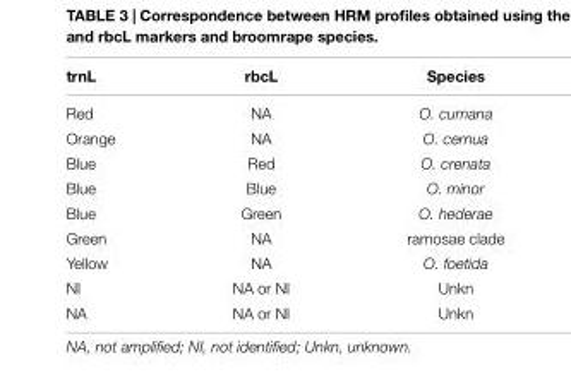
<table><thead><tr><td>trnL</td><td>rbcL</td><td>Species</td></tr></thead><tbody><tr><td>Red</td><td>NA</td><td>O. cumana</td></tr><tr><td>Orange</td><td>NA</td><td>O. cernua</td></tr><tr><td>Blue</td><td>Red</td><td>O. crenata</td></tr><tr><td>Blue</td><td>Blue</td><td>O. minor</td></tr><tr><td>Blue</td><td>Green</td><td>O. hederae</td></tr><tr><td>Green</td><td>NA</td><td>ramosae clade</td></tr><tr><td>Yellow</td><td>NA</td><td>O. foetida</td></tr><tr><td>NI</td><td>NA or NI</td><td>Unkn</td></tr><tr><td>NA</td><td>NA or NI</td><td>Unkn</td></tr></tbody></table>